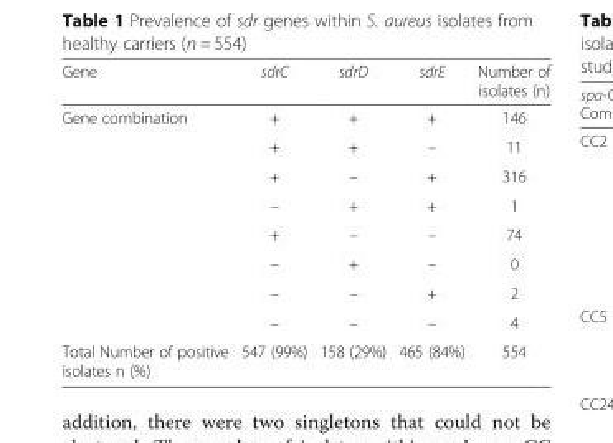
<table><thead><tr><td>Gene</td><td>sdrC</td><td>sdrD</td><td>sdrE</td><td>Number of isolates (n)</td></tr></thead><tbody><tr><td rowspan="8">Gene combination</td><td>+</td><td>+</td><td>+</td><td>146</td></tr><tr><td>+</td><td>+</td><td>–</td><td>11</td></tr><tr><td>+</td><td>–</td><td>+</td><td>316</td></tr><tr><td>–</td><td>+</td><td>+</td><td>1</td></tr><tr><td>+</td><td>–</td><td>–</td><td>74</td></tr><tr><td>–</td><td>+</td><td>–</td><td>0</td></tr><tr><td>–</td><td>–</td><td>+</td><td>2</td></tr><tr><td>–</td><td>–</td><td>–</td><td>4</td></tr><tr><td>Total Number of positive isolates n (%)</td><td>547 (99%)</td><td>158 (29%)</td><td>465 (84%)</td><td>554</td></tr></tbody></table>